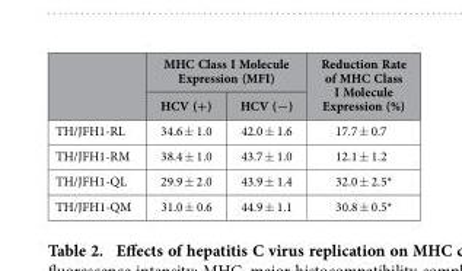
<table><thead><tr><td rowspan="2"></td><td colspan="2">MHC Class I Molecule Expression (MFI)</td><td rowspan="2">Reduction Rate of MHC Class I Molecule Expression (%)</td></tr><tr><td>HCV (+)</td><td>HCV (−)</td></tr></thead><tbody><tr><td>TH/JFH1-RL</td><td>34.6 ± 1.0</td><td>42.0 ± 1.6</td><td>17.7 ± 0.7</td></tr><tr><td>TH/JFH1-RM</td><td>38.4 ± 1.0</td><td>43.7 ± 1.0</td><td>12.1 ± 1.2</td></tr><tr><td>TH/JFH1-QL</td><td>29.9 ± 2.0</td><td>43.9 ± 1.4</td><td>32.0 ± 2.5*</td></tr><tr><td>TH/JFH1-QM</td><td>31.0 ± 0.6</td><td>44.9 ± 1.1</td><td>30.8 ± 0.5*</td></tr></tbody></table>